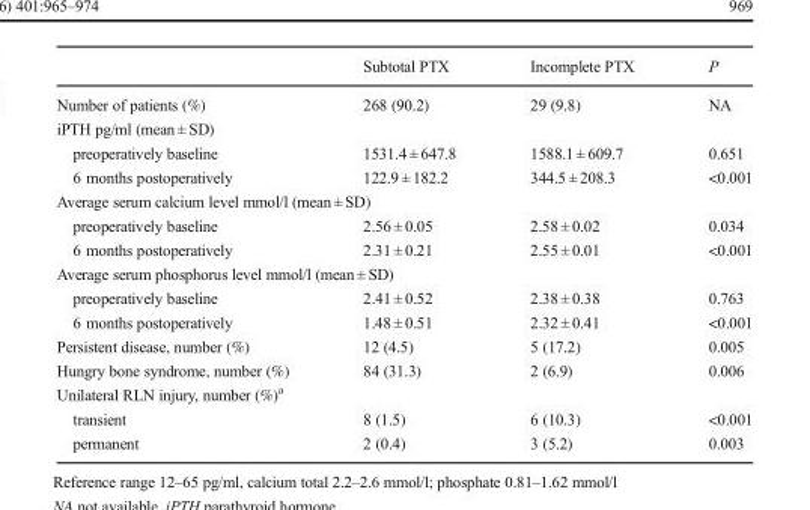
<table><thead><tr><td></td><td>Subtotal PTX</td><td>Incomplete PTX</td><td>P</td></tr></thead><tbody><tr><td>Number of patients (%)</td><td>268 (90.2)</td><td>29 (9.8)</td><td>NA</td></tr><tr><td colspan="4">iPTH pg/ml (mean ± SD)</td></tr><tr><td>preoperatively baseline</td><td>1531.4 ± 647.8</td><td>1588.1 ± 609.7</td><td>0.651</td></tr><tr><td>6 months postoperatively</td><td>122.9 ± 182.2</td><td>344.5 ± 208.3</td><td>&lt;0.001</td></tr><tr><td colspan="4">Average serum calcium level mmol/l (mean ± SD)</td></tr><tr><td>preoperatively baseline</td><td>2.56 ± 0.05</td><td>2.58 ± 0.02</td><td>0.034</td></tr><tr><td>6 months postoperatively</td><td>2.31 ± 0.21</td><td>2.55 ± 0.01</td><td>&lt;0.001</td></tr><tr><td colspan="4">Average serum phosphorus level mmol/l (mean ± SD)</td></tr><tr><td>preoperatively baseline</td><td>2.41 ± 0.52</td><td>2.38 ± 0.38</td><td>0.763</td></tr><tr><td>6 months postoperatively</td><td>1.48 ± 0.51</td><td>2.32 ± 0.41</td><td>&lt;0.001</td></tr><tr><td>Persistent disease, number (%)</td><td>12 (4.5)</td><td>5 (17.2)</td><td>0.005</td></tr><tr><td>Hungry bone syndrome, number (%)</td><td>84 (31.3)</td><td>2 (6.9)</td><td>0.006</td></tr><tr><td colspan="4">Unilateral RLN injury, number (%)<sup>a</sup></td></tr><tr><td>transient</td><td>8 (1.5)</td><td>6 (10.3)</td><td>&lt;0.001</td></tr><tr><td>permanent</td><td>2 (0.4)</td><td>3 (5.2)</td><td>0.003</td></tr></tbody></table>